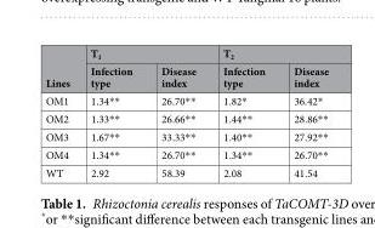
<table><thead><tr><td rowspan="2">Lines</td><td colspan="2">T<sub>1</sub></td><td colspan="2">T<sub>2</sub></td></tr><tr><td>Infection type</td><td>Disease index</td><td>Infection type</td><td>Disease index</td></tr></thead><tbody><tr><td>OM1</td><td>1.34**</td><td>26.70**</td><td>1.82*</td><td>36.42*</td></tr><tr><td>OM2</td><td>1.33**</td><td>26.66**</td><td>1.44**</td><td>28.86**</td></tr><tr><td>OM3</td><td>1.67**</td><td>33.33**</td><td>1.40**</td><td>27.92**</td></tr><tr><td>OM4</td><td>1.34**</td><td>26.70**</td><td>1.34**</td><td>26.70**</td></tr><tr><td>WT</td><td>2.92</td><td>58.39</td><td>2.08</td><td>41.54</td></tr></tbody></table>